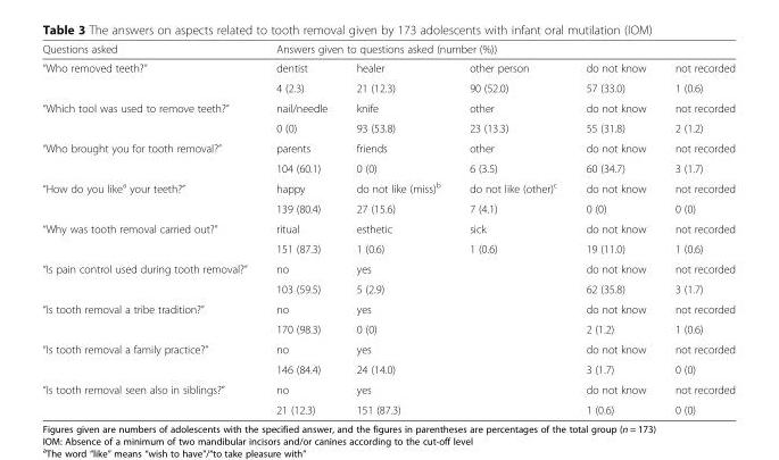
<table><thead><tr><td rowspan="2">Questions asked “Who removed teeth?”</td><td colspan="4">Answers given to questions asked (number (%))</td><td rowspan="2">not recorded</td></tr><tr><td>dentist</td><td>healer</td><td>other person</td><td>do not know</td></tr></thead><tbody><tr><td></td><td>4 (2.3)</td><td>21 (12.3)</td><td>90 (52.0)</td><td>57 (33.0)</td><td>1 (0.6)</td></tr><tr><td rowspan="2">“Which tool was used to remove teeth?”</td><td>nail/needle</td><td>knife</td><td>other</td><td>do not know</td><td>not recorded</td></tr><tr><td>0 (0)</td><td>93 (53.8)</td><td>23 (13.3)</td><td>55 (31.8)</td><td>2 (1.2)</td></tr><tr><td rowspan="2">“Who brought you for tooth removal?”</td><td>parents</td><td>friends</td><td>other</td><td>do not know</td><td>not recorded</td></tr><tr><td>104 (60.1)</td><td>0 (0)</td><td>6 (3.5)</td><td>60 (34.7)</td><td>3 (1.7)</td></tr><tr><td rowspan="2">“How do you like<sup>a</sup> your teeth?”</td><td>happy</td><td>do not like (miss)<sup>b</sup></td><td>do not like (other)<sup>c</sup></td><td>do not know</td><td>not recorded</td></tr><tr><td>139 (80.4)</td><td>27 (15.6)</td><td>7 (4.1)</td><td>0 (0)</td><td>0 (0)</td></tr><tr><td rowspan="2">“Why was tooth removal carried out?”</td><td>ritual</td><td>esthetic</td><td>sick</td><td>do not know</td><td>not recorded</td></tr><tr><td>151 (87.3)</td><td>1 (0.6)</td><td>1 (0.6)</td><td>19 (11.0)</td><td>1 (0.6)</td></tr><tr><td rowspan="2">“Is pain control used during tooth removal?”</td><td>no</td><td>yes</td><td></td><td>do not know</td><td>not recorded</td></tr><tr><td>103 (59.5)</td><td>5 (2.9)</td><td></td><td>62 (35.8)</td><td>3 (1.7)</td></tr><tr><td rowspan="2">“Is tooth removal a tribe tradition?”</td><td>no</td><td>yes</td><td></td><td>do not know</td><td>not recorded</td></tr><tr><td>170 (98.3)</td><td>0 (0)</td><td></td><td>2 (1.2)</td><td>1 (0.6)</td></tr><tr><td rowspan="2">“Is tooth removal a family practice?”</td><td>no</td><td>yes</td><td></td><td>do not know</td><td>not recorded</td></tr><tr><td>146 (84.4)</td><td>24 (14.0)</td><td></td><td>3 (1.7)</td><td>0 (0)</td></tr><tr><td rowspan="2">“Is tooth removal seen also in siblings?”</td><td>no</td><td>yes</td><td></td><td>do not know</td><td>not recorded</td></tr><tr><td>21 (12.3)</td><td>151 (87.3)</td><td></td><td>1 (0.6)</td><td>0 (0)</td></tr></tbody></table>